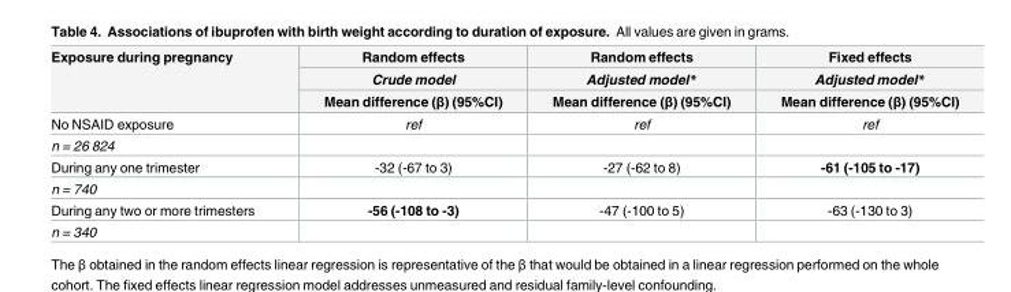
<table><thead><tr><td rowspan="3">Exposure during pregnancy</td><td rowspan="3">Random effects Crude model Mean difference (β) (95%CI)</td><td rowspan="3">Random effects Adjusted model* Mean difference (β) (95%CI)</td><td rowspan="3">Fixed effects Adjusted model* Mean difference (β) (95%CI)</td></tr><tr></tr><tr></tr></thead><tbody><tr><td>No NSAID exposure</td><td>ref</td><td>ref</td><td>ref</td></tr><tr><td colspan="4">n = 26 824</td></tr><tr><td>During any one trimester</td><td>-32 (-67 to 3)</td><td>-27 (-62 to 8)</td><td>-61 (-105 to -17)</td></tr><tr><td colspan="4">n = 740</td></tr><tr><td>During any two or more trimesters</td><td>-56 (-108 to -3)</td><td>-47 (-100 to 5)</td><td>-63 (-130 to 3)</td></tr><tr><td>n = 340</td><td></td><td></td><td></td></tr></tbody></table>